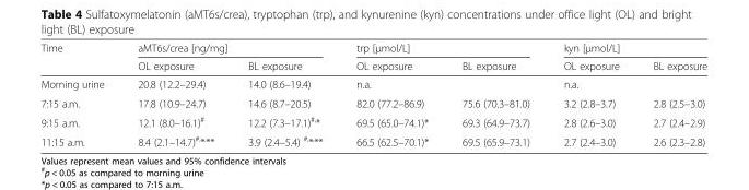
<table><thead><tr><td rowspan="2">Time</td><td colspan="2">aMT6s/crea [ng/mg]</td><td colspan="2">trp [μmol/L]</td><td colspan="2">kyn [μmol/L]</td></tr><tr><td>OL exposure</td><td>BL exposure</td><td>OL exposure</td><td>BL exposure</td><td>OL exposure</td><td>BL exposure</td></tr></thead><tbody><tr><td>Morning urine</td><td>20.8 (12.2–29.4)</td><td>14.0 (8.6–19.4)</td><td colspan="2">n.a.</td><td colspan="2">n.a.</td></tr><tr><td>7:15 a.m.</td><td>17.8 (10.9–24.7)</td><td>14.6 (8.7–20.5)</td><td>82.0 (77.2–86.9)</td><td>75.6 (70.3–81.0)</td><td>3.2 (2.8–3.7)</td><td>2.8 (2.5–3.0)</td></tr><tr><td>9:15 a.m.</td><td>12.1 (8.0–16.1)<sup>#</sup></td><td>12.2 (7.3–17.1)<sup>#,</sup>*</td><td>69.5 (65.0–74.1)*</td><td>69.3 (64.9–73.7)</td><td>2.8 (2.6–3.0)</td><td>2.7 (2.4–2.9)</td></tr><tr><td>11:15 a.m.</td><td>8.4 (2.1–14.7)<sup>#,</sup>*<sup>,</sup>**</td><td>3.9 (2.4–5.4) <sup>#,</sup>*<sup>,</sup>**</td><td>66.5 (62.5–70.1)*</td><td>69.5 (65.9–73.1)</td><td>2.7 (2.4–3.0)</td><td>2.6 (2.3–2.8)</td></tr></tbody></table>